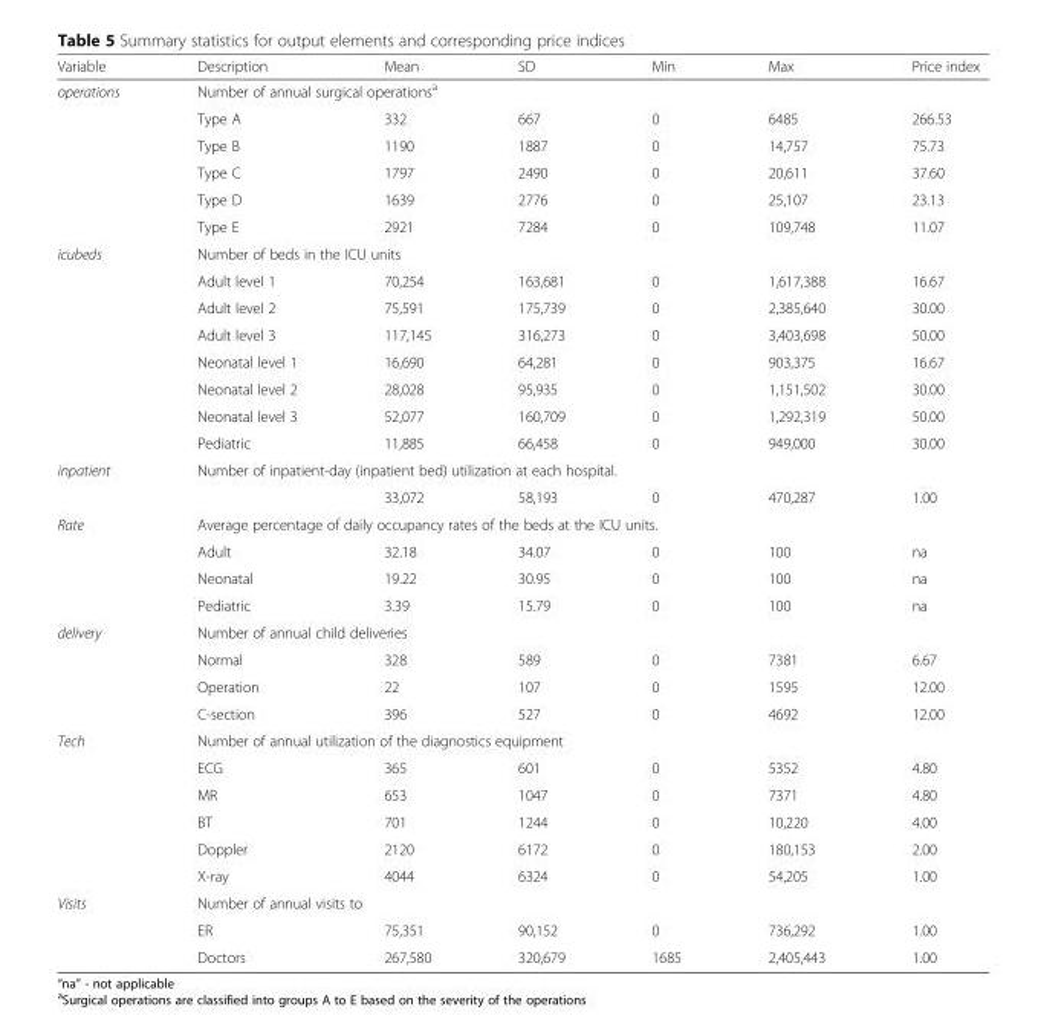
<table><thead><tr><td>Variable</td><td>Description</td><td>Mean</td><td>SD</td><td>Min</td><td>Max</td><td>Price index</td></tr></thead><tbody><tr><td rowspan="6">operations</td><td colspan="6">Number of annual surgical operations<sup>a</sup></td></tr><tr><td>Type A</td><td>332</td><td>667</td><td>0</td><td>6485</td><td>266.53</td></tr><tr><td>Type B</td><td>1190</td><td>1887</td><td>0</td><td>14,757</td><td>75.73</td></tr><tr><td>Type C</td><td>1797</td><td>2490</td><td>0</td><td>20,611</td><td>37.60</td></tr><tr><td>Type D</td><td>1639</td><td>2776</td><td>0</td><td>25,107</td><td>23.13</td></tr><tr><td>Type E</td><td>2921</td><td>7284</td><td>0</td><td>109,748</td><td>11.07</td></tr><tr><td rowspan="8">icubeds</td><td colspan="6">Number of beds in the ICU units</td></tr><tr><td>Adult level 1</td><td>70,254</td><td>163,681</td><td>0</td><td>1,617,388</td><td>16.67</td></tr><tr><td>Adult level 2</td><td>75,591</td><td>175,739</td><td>0</td><td>2,385,640</td><td>30.00</td></tr><tr><td>Adult level 3</td><td>117,145</td><td>316,273</td><td>0</td><td>3,403,698</td><td>50.00</td></tr><tr><td>Neonatal level 1</td><td>16,690</td><td>64,281</td><td>0</td><td>903,375</td><td>16.67</td></tr><tr><td>Neonatal level 2</td><td>28,028</td><td>95,935</td><td>0</td><td>1,151,502</td><td>30.00</td></tr><tr><td>Neonatal level 3</td><td>52,077</td><td>160,709</td><td>0</td><td>1,292,319</td><td>50.00</td></tr><tr><td>Pediatric</td><td>11,885</td><td>66,458</td><td>0</td><td>949,000</td><td>30.00</td></tr><tr><td rowspan="2">inpatient</td><td colspan="6">Number of inpatient-day (inpatient bed) utilization at each hospital.</td></tr><tr><td></td><td>33,072</td><td>58,193</td><td>0</td><td>470,287</td><td>1.00</td></tr><tr><td rowspan="4">Rate</td><td colspan="6">Average percentage of daily occupancy rates of the beds at the ICU units.</td></tr><tr><td>Adult</td><td>32.18</td><td>34.07</td><td>0</td><td>100</td><td>na</td></tr><tr><td>Neonatal</td><td>19.22</td><td>30.95</td><td>0</td><td>100</td><td>na</td></tr><tr><td>Pediatric</td><td>3.39</td><td>15.79</td><td>0</td><td>100</td><td>na</td></tr><tr><td rowspan="4">delivery</td><td colspan="6">Number of annual child deliveries</td></tr><tr><td>Normal</td><td>328</td><td>589</td><td>0</td><td>7381</td><td>6.67</td></tr><tr><td>Operation</td><td>22</td><td>107</td><td>0</td><td>1595</td><td>12.00</td></tr><tr><td>C-section</td><td>396</td><td>527</td><td>0</td><td>4692</td><td>12.00</td></tr><tr><td rowspan="6">Tech</td><td colspan="6">Number of annual utilization of the diagnostics equipment</td></tr><tr><td>ECG</td><td>365</td><td>601</td><td>0</td><td>5352</td><td>4.80</td></tr><tr><td>MR</td><td>653</td><td>1047</td><td>0</td><td>7371</td><td>4.80</td></tr><tr><td>BT</td><td>701</td><td>1244</td><td>0</td><td>10,220</td><td>4.00</td></tr><tr><td>Doppler</td><td>2120</td><td>6172</td><td>0</td><td>180,153</td><td>2.00</td></tr><tr><td>X-ray</td><td>4044</td><td>6324</td><td>0</td><td>54,205</td><td>1.00</td></tr><tr><td rowspan="3">Visits</td><td colspan="6">Number of annual visits to</td></tr><tr><td>ER</td><td>75,351</td><td>90,152</td><td>0</td><td>736,292</td><td>1.00</td></tr><tr><td>Doctors</td><td>267,580</td><td>320,679</td><td>1685</td><td>2,405,443</td><td>1.00</td></tr></tbody></table>